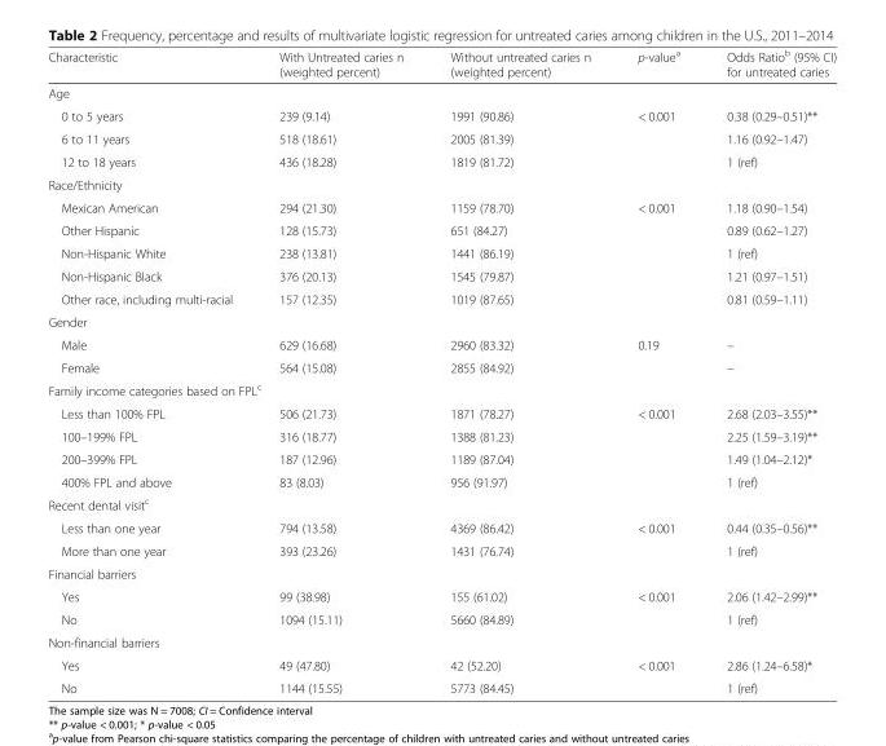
<table><thead><tr><td>Characteristic</td><td>With Untreated caries n (weighted percent)</td><td>Without untreated caries n (weighted percent)</td><td>p-value<sup>a</sup></td><td>Odds Ratio<sup>b</sup> (95% CI) for untreated caries</td></tr></thead><tbody><tr><td colspan="5">Age</td></tr><tr><td>0 to 5 years</td><td>239 (9.14)</td><td>1991 (90.86)</td><td rowspan="3">&lt; 0.001</td><td>0.38 (0.29–0.51)**</td></tr><tr><td>6 to 11 years</td><td>518 (18.61)</td><td>2005 (81.39)</td><td>1.16 (0.92–1.47)</td></tr><tr><td>12 to 18 years</td><td>436 (18.28)</td><td>1819 (81.72)</td><td>1 (ref)</td></tr><tr><td colspan="5">Race/Ethnicity</td></tr><tr><td>Mexican American</td><td>294 (21.30)</td><td>1159 (78.70)</td><td rowspan="5">&lt; 0.001</td><td>1.18 (0.90–1.54)</td></tr><tr><td>Other Hispanic</td><td>128 (15.73)</td><td>651 (84.27)</td><td>0.89 (0.62–1.27)</td></tr><tr><td>Non-Hispanic White</td><td>238 (13.81)</td><td>1441 (86.19)</td><td>1 (ref)</td></tr><tr><td>Non-Hispanic Black</td><td>376 (20.13)</td><td>1545 (79.87)</td><td>1.21 (0.97–1.51)</td></tr><tr><td>Other race, including multi-racial</td><td>157 (12.35)</td><td>1019 (87.65)</td><td>0.81 (0.59–1.11)</td></tr><tr><td colspan="5">Gender</td></tr><tr><td>Male</td><td>629 (16.68)</td><td>2960 (83.32)</td><td rowspan="2">0.19</td><td>–</td></tr><tr><td>Female</td><td>564 (15.08)</td><td>2855 (84.92)</td><td>–</td></tr><tr><td colspan="5">Family income categories based on FPL<sup>c</sup></td></tr><tr><td>Less than 100% FPL</td><td>506 (21.73)</td><td>1871 (78.27)</td><td rowspan="4">&lt; 0.001</td><td>2.68 (2.03–3.55)**</td></tr><tr><td>100–199% FPL</td><td>316 (18.77)</td><td>1388 (81.23)</td><td>2.25 (1.59–3.19)**</td></tr><tr><td>200–399% FPL</td><td>187 (12.96)</td><td>1189 (87.04)</td><td>1.49 (1.04–2.12)*</td></tr><tr><td>400% FPL and above</td><td>83 (8.03)</td><td>956 (91.97)</td><td>1 (ref)</td></tr><tr><td colspan="5">Recent dental visit<sup>c</sup></td></tr><tr><td>Less than one year</td><td>794 (13.58)</td><td>4369 (86.42)</td><td rowspan="2">&lt; 0.001</td><td>0.44 (0.35–0.56)**</td></tr><tr><td>More than one year</td><td>393 (23.26)</td><td>1431 (76.74)</td><td>1 (ref)</td></tr><tr><td colspan="5">Financial barriers</td></tr><tr><td>Yes</td><td>99 (38.98)</td><td>155 (61.02)</td><td rowspan="2">&lt; 0.001</td><td>2.06 (1.42–2.99)**</td></tr><tr><td>No</td><td>1094 (15.11)</td><td>5660 (84.89)</td><td>1 (ref)</td></tr><tr><td colspan="5">Non-financial barriers</td></tr><tr><td>Yes</td><td>49 (47.80)</td><td>42 (52.20)</td><td rowspan="2">&lt; 0.001</td><td>2.86 (1.24–6.58)*</td></tr><tr><td>No</td><td>1144 (15.55)</td><td>5773 (84.45)</td><td>1 (ref)</td></tr></tbody></table>